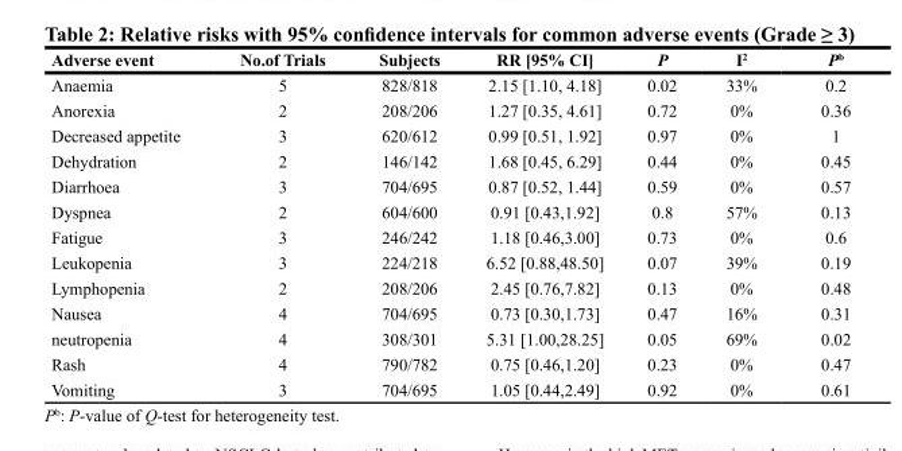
<table><thead><tr><td>Adverse event</td><td>No.of Trials</td><td>Subjects</td><td>RR [95% CI]</td><td>P</td><td>I<sup>2</sup></td><td>P<sup>b</sup></td></tr></thead><tbody><tr><td>Anaemia</td><td>5</td><td>828/818</td><td>2.15 [1.10, 4.18]</td><td>0.02</td><td>33%</td><td>0.2</td></tr><tr><td>Anorexia</td><td>2</td><td>208/206</td><td>1.27 [0.35, 4.61]</td><td>0.72</td><td>0%</td><td>0.36</td></tr><tr><td>Decreased appetite</td><td>3</td><td>620/612</td><td>0.99 [0.51, 1.92]</td><td>0.97</td><td>0%</td><td>1</td></tr><tr><td>Dehydration</td><td>2</td><td>146/142</td><td>1.68 [0.45, 6.29]</td><td>0.44</td><td>0%</td><td>0.45</td></tr><tr><td>Diarrhoea</td><td>3</td><td>704/695</td><td>0.87 [0.52, 1.44]</td><td>0.59</td><td>0%</td><td>0.57</td></tr><tr><td>Dyspnea</td><td>2</td><td>604/600</td><td>0.91 [0.43,1.92]</td><td>0.8</td><td>57%</td><td>0.13</td></tr><tr><td>Fatigue</td><td>3</td><td>246/242</td><td>1.18 [0.46,3.00]</td><td>0.73</td><td>0%</td><td>0.6</td></tr><tr><td>Leukopenia</td><td>3</td><td>224/218</td><td>6.52 [0.88,48.50]</td><td>0.07</td><td>39%</td><td>0.19</td></tr><tr><td>Lymphopenia</td><td>2</td><td>208/206</td><td>2.45 [0.76,7.82]</td><td>0.13</td><td>0%</td><td>0.48</td></tr><tr><td>Nausea</td><td>4</td><td>704/695</td><td>0.73 [0.30,1.73]</td><td>0.47</td><td>16%</td><td>0.31</td></tr><tr><td>neutropenia</td><td>4</td><td>308/301</td><td>5.31 [1.00,28.25]</td><td>0.05</td><td>69%</td><td>0.02</td></tr><tr><td>Rash</td><td>4</td><td>790/782</td><td>0.75 [0.46,1.20]</td><td>0.23</td><td>0%</td><td>0.47</td></tr><tr><td>Vomiting</td><td>3</td><td>704/695</td><td>1.05 [0.44,2.49]</td><td>0.92</td><td>0%</td><td>0.61</td></tr></tbody></table>